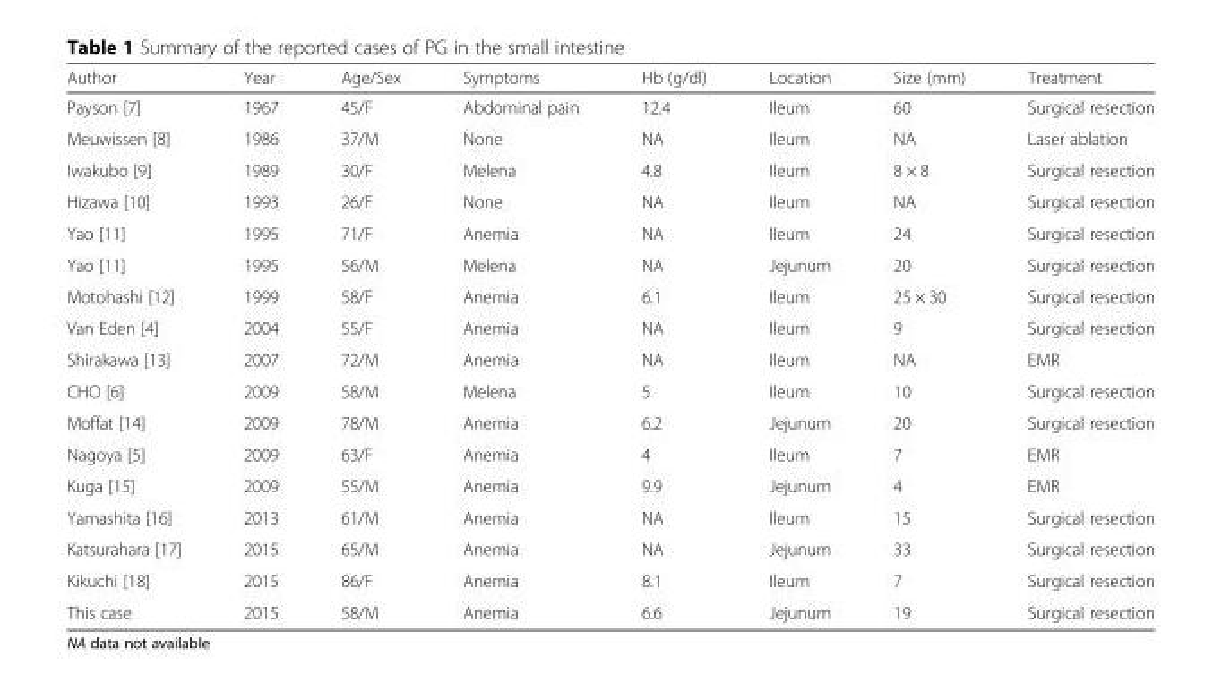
<table><thead><tr><td>Author</td><td>Year</td><td>Age/Sex</td><td>Symptoms</td><td>Hb (g/dl)</td><td>Location</td><td>Size (mm)</td><td>Treatment</td></tr></thead><tbody><tr><td>Payson [7]</td><td>1967</td><td>45/F</td><td>Abdominal pain</td><td>12.4</td><td>Ileum</td><td>60</td><td>Surgical resection</td></tr><tr><td>Meuwissen [8]</td><td>1986</td><td>37/M</td><td>None</td><td>NA</td><td>Ileum</td><td>NA</td><td>Laser ablation</td></tr><tr><td>Iwakubo [9]</td><td>1989</td><td>30/F</td><td>Melena</td><td>4.8</td><td>Ileum</td><td>8 × 8</td><td>Surgical resection</td></tr><tr><td>Hizawa [10]</td><td>1993</td><td>26/F</td><td>None</td><td>NA</td><td>Ileum</td><td>NA</td><td>Surgical resection</td></tr><tr><td>Yao [11]</td><td>1995</td><td>71/F</td><td>Anemia</td><td>NA</td><td>Ileum</td><td>24</td><td>Surgical resection</td></tr><tr><td>Yao [11]</td><td>1995</td><td>56/M</td><td>Melena</td><td>NA</td><td>Jejunum</td><td>20</td><td>Surgical resection</td></tr><tr><td>Motohashi [12]</td><td>1999</td><td>58/F</td><td>Anemia</td><td>6.1</td><td>Ileum</td><td>25 × 30</td><td>Surgical resection</td></tr><tr><td>Van Eden [4]</td><td>2004</td><td>55/F</td><td>Anemia</td><td>NA</td><td>Ileum</td><td>9</td><td>Surgical resection</td></tr><tr><td>Shirakawa [13]</td><td>2007</td><td>72/M</td><td>Anemia</td><td>NA</td><td>Ileum</td><td>NA</td><td>EMR</td></tr><tr><td>CHO [6]</td><td>2009</td><td>58/M</td><td>Melena</td><td>5</td><td>Ileum</td><td>10</td><td>Surgical resection</td></tr><tr><td>Moffat [14]</td><td>2009</td><td>78/M</td><td>Anemia</td><td>6.2</td><td>Jejunum</td><td>20</td><td>Surgical resection</td></tr><tr><td>Nagoya [5]</td><td>2009</td><td>63/F</td><td>Anemia</td><td>4</td><td>Ileum</td><td>7</td><td>EMR</td></tr><tr><td>Kuga [15]</td><td>2009</td><td>55/M</td><td>Anemia</td><td>9.9</td><td>Jejunum</td><td>4</td><td>EMR</td></tr><tr><td>Yamashita [16]</td><td>2013</td><td>61/M</td><td>Anemia</td><td>NA</td><td>Ileum</td><td>15</td><td>Surgical resection</td></tr><tr><td>Katsurahara [17]</td><td>2015</td><td>65/M</td><td>Anemia</td><td>NA</td><td>Jejunum</td><td>33</td><td>Surgical resection</td></tr><tr><td>Kikuchi [18]</td><td>2015</td><td>86/F</td><td>Anemia</td><td>8.1</td><td>Ileum</td><td>7</td><td>Surgical resection</td></tr><tr><td>This case</td><td>2015</td><td>58/M</td><td>Anemia</td><td>6.6</td><td>Jejunum</td><td>19</td><td>Surgical resection</td></tr></tbody></table>